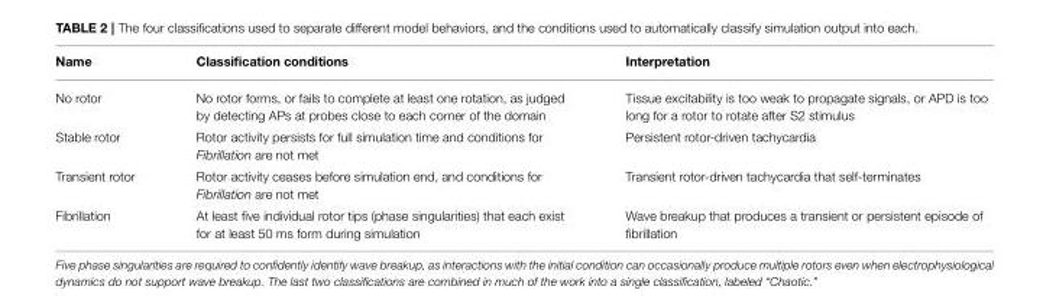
<table><thead><tr><td>Name</td><td>Classification conditions</td><td>Interpretation</td></tr></thead><tbody><tr><td>No rotor</td><td>No rotor forms, or fails to complete at least one rotation, as judged by detecting APs at probes close to each corner of the domain</td><td>Tissue excitability is too weak to propagate signals, or APD is too long for a rotor to rotate after S2 stimulus</td></tr><tr><td>Stable rotor</td><td>Rotor activity persists for full simulation time and conditions for Fibrillation are not met</td><td>Persistent rotor-driven tachycardia</td></tr><tr><td>Transient rotor</td><td>Rotor activity ceases before simulation end, and conditions for Fibrillation are not met</td><td>Transient rotor-driven tachycardia that self-terminates</td></tr><tr><td>Fibrillation</td><td>At least five individual rotor tips (phase singularities) that each exist for at least 50 ms form during simulation</td><td>Wave breakup that produces a transient or persistent episode of fibrillation</td></tr></tbody></table>